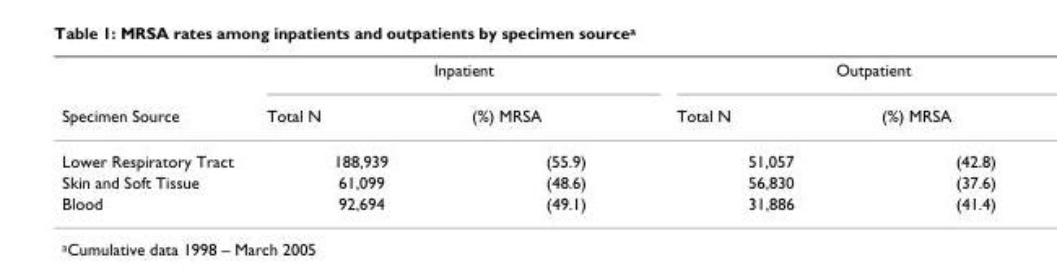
<table><thead><tr><td rowspan="2">Specimen Source</td><td colspan="2">Inpatient</td><td colspan="2">Outpatient</td></tr><tr><td>Total N</td><td>(%) MRSA</td><td>Total N</td><td>(%) MRSA</td></tr></thead><tbody><tr><td>Lower Respiratory Tract</td><td>188,939</td><td>(55.9)</td><td>51,057</td><td>(42.8)</td></tr><tr><td>Skin and Soft Tissue</td><td>61,099</td><td>(48.6)</td><td>56,830</td><td>(37.6)</td></tr><tr><td>Blood</td><td>92,694</td><td>(49.1)</td><td>31,886</td><td>(41.4)</td></tr></tbody></table>